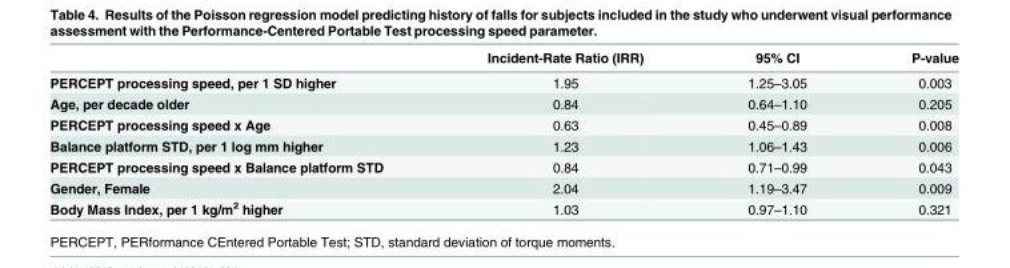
<table><thead><tr><td></td><td>Incident-Rate Ratio (IRR)</td><td>95% CI</td><td>P-value</td></tr></thead><tbody><tr><td>PERCEPT processing speed, per 1 SD higher</td><td>1.95</td><td>1.25–3.05</td><td>0.003</td></tr><tr><td>Age, per decade older</td><td>0.84</td><td>0.64–1.10</td><td>0.205</td></tr><tr><td>PERCEPT processing speed x Age</td><td>0.63</td><td>0.45–0.89</td><td>0.008</td></tr><tr><td>Balance platform STD, per 1 log mm higher</td><td>1.23</td><td>1.06–1.43</td><td>0.006</td></tr><tr><td>PERCEPT processing speed x Balance platform STD</td><td>0.84</td><td>0.71–0.99</td><td>0.043</td></tr><tr><td>Gender, Female</td><td>2.04</td><td>1.19–3.47</td><td>0.009</td></tr><tr><td>Body Mass Index, per 1 kg/m<sup>2</sup> higher</td><td>1.03</td><td>0.97–1.10</td><td>0.321</td></tr></tbody></table>